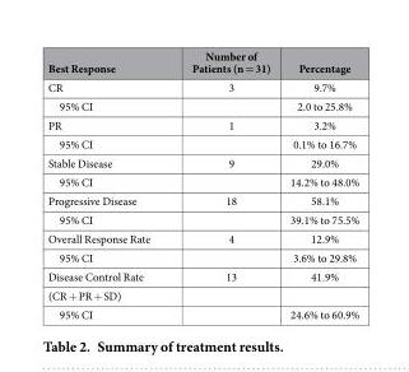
<table><thead><tr><td>Best Response</td><td>Number of Patients (n = 31)</td><td>Percentage</td></tr></thead><tbody><tr><td>CR</td><td>3</td><td>9.7%</td></tr><tr><td>95% CI</td><td></td><td>2.0 to 25.8%</td></tr><tr><td>PR</td><td>1</td><td>3.2%</td></tr><tr><td>95% CI</td><td></td><td>0.1% to 16.7%</td></tr><tr><td>Stable Disease</td><td>9</td><td>29.0%</td></tr><tr><td>95% CI</td><td></td><td>14.2% to 48.0%</td></tr><tr><td>Progressive Disease</td><td>18</td><td>58.1%</td></tr><tr><td>95% CI</td><td></td><td>39.1% to 75.5%</td></tr><tr><td>Overall Response Rate</td><td>4</td><td>12.9%</td></tr><tr><td>95% CI</td><td></td><td>3.6% to 29.8%</td></tr><tr><td>Disease Control Rate</td><td>13</td><td>41.9%</td></tr><tr><td colspan="3">(CR + PR + SD)</td></tr><tr><td>95% CI</td><td></td><td>24.6% to 60.9%</td></tr></tbody></table>